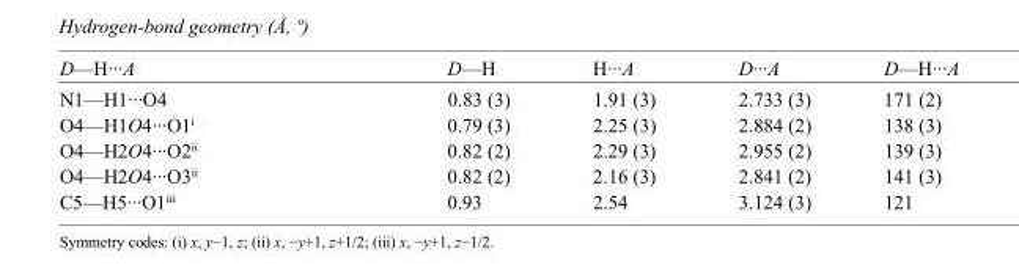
<table><tbody><tr><td>D—H···A</td><td>D—H</td><td>H···A</td><td>D···A</td><td>D—H···A</td></tr><tr><td>N1—H1···O4</td><td>0.83 (3)</td><td>1.91 (3)</td><td>2.733 (3)</td><td>171 (2)</td></tr><tr><td>O4—H1O4···O1<sup>i</sup></td><td>0.79 (3)</td><td>2.25 (3)</td><td>2.884 (2)</td><td>138 (3)</td></tr><tr><td>O4—H2O4···O2<sup>ii</sup></td><td>0.82 (2)</td><td>2.29 (3)</td><td>2.955 (2)</td><td>139 (3)</td></tr><tr><td>O4—H2O4···O3<sup>ii</sup></td><td>0.82 (2)</td><td>2.16 (3)</td><td>2.841 (2)</td><td>141 (3)</td></tr><tr><td>C5—H5···O1<sup>iii</sup></td><td>0.93</td><td>2.54</td><td>3.124 (3)</td><td>121</td></tr></tbody></table>